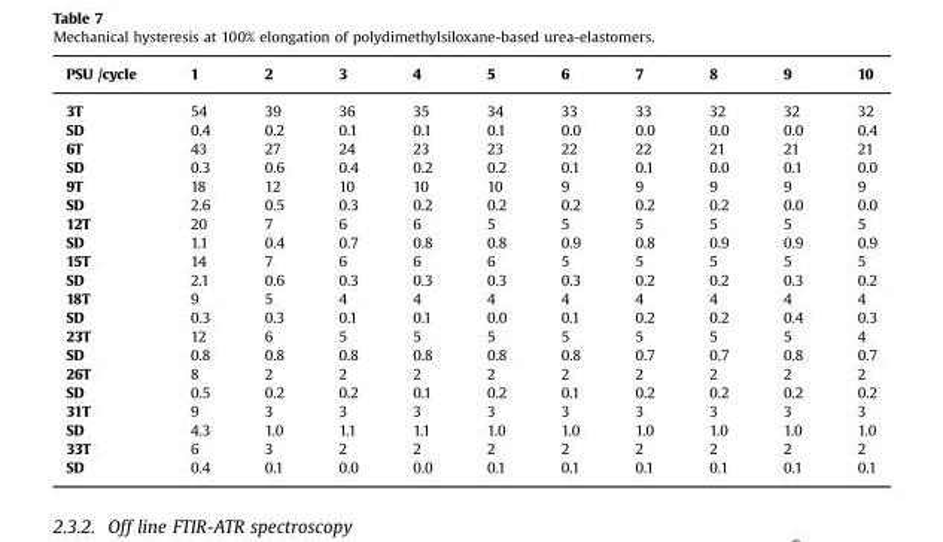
<table><thead><tr><td>PSU /cycle</td><td>1</td><td>2</td><td>3</td><td>4</td><td>5</td><td>6</td><td>7</td><td>8</td><td>9</td><td>10</td></tr></thead><tbody><tr><td>3T</td><td>54</td><td>39</td><td>36</td><td>35</td><td>34</td><td>33</td><td>33</td><td>32</td><td>32</td><td>32</td></tr><tr><td>SD</td><td>0.4</td><td>0.2</td><td>0.1</td><td>0.1</td><td>0.1</td><td>0.0</td><td>0.0</td><td>0.0</td><td>0.0</td><td>0.4</td></tr><tr><td>6T</td><td>43</td><td>27</td><td>24</td><td>23</td><td>23</td><td>22</td><td>22</td><td>21</td><td>21</td><td>21</td></tr><tr><td>SD</td><td>0.3</td><td>0.6</td><td>0.4</td><td>0.2</td><td>0.2</td><td>0.1</td><td>0.1</td><td>0.0</td><td>0.1</td><td>0.0</td></tr><tr><td>9T</td><td>18</td><td>12</td><td>10</td><td>10</td><td>10</td><td>9</td><td>9</td><td>9</td><td>9</td><td>9</td></tr><tr><td>SD</td><td>2.6</td><td>0.5</td><td>0.3</td><td>0.2</td><td>0.2</td><td>0.2</td><td>0.2</td><td>0.2</td><td>0.0</td><td>0.0</td></tr><tr><td>12T</td><td>20</td><td>7</td><td>6</td><td>6</td><td>5</td><td>5</td><td>5</td><td>5</td><td>5</td><td>5</td></tr><tr><td>SD</td><td>1.1</td><td>0.4</td><td>0.7</td><td>0.8</td><td>0.8</td><td>0.9</td><td>0.8</td><td>0.9</td><td>0.9</td><td>0.9</td></tr><tr><td>15T</td><td>14</td><td>7</td><td>6</td><td>6</td><td>6</td><td>5</td><td>5</td><td>5</td><td>5</td><td>5</td></tr><tr><td>SD</td><td>2.1</td><td>0.6</td><td>0.3</td><td>0.3</td><td>0.3</td><td>0.3</td><td>0.2</td><td>0.2</td><td>0.3</td><td>0.2</td></tr><tr><td>18T</td><td>9</td><td>5</td><td>4</td><td>4</td><td>4</td><td>4</td><td>4</td><td>4</td><td>4</td><td>4</td></tr><tr><td>SD</td><td>0.3</td><td>0.3</td><td>0.1</td><td>0.1</td><td>0.0</td><td>0.1</td><td>0.2</td><td>0.2</td><td>0.4</td><td>0.3</td></tr><tr><td>23T</td><td>12</td><td>6</td><td>5</td><td>5</td><td>5</td><td>5</td><td>5</td><td>5</td><td>5</td><td>4</td></tr><tr><td>SD</td><td>0.8</td><td>0.8</td><td>0.8</td><td>0.8</td><td>0.8</td><td>0.8</td><td>0.7</td><td>0.7</td><td>0.8</td><td>0.7</td></tr><tr><td>26T</td><td>8</td><td>2</td><td>2</td><td>2</td><td>2</td><td>2</td><td>2</td><td>2</td><td>2</td><td>2</td></tr><tr><td>SD</td><td>0.5</td><td>0.2</td><td>0.2</td><td>0.1</td><td>0.2</td><td>0.1</td><td>0.2</td><td>0.2</td><td>0.2</td><td>0.2</td></tr><tr><td>31T</td><td>9</td><td>3</td><td>3</td><td>3</td><td>3</td><td>3</td><td>3</td><td>3</td><td>3</td><td>3</td></tr><tr><td>SD</td><td>4.3</td><td>1.0</td><td>1.1</td><td>1.1</td><td>1.0</td><td>1.0</td><td>1.0</td><td>1.0</td><td>1.0</td><td>1.0</td></tr><tr><td>33T</td><td>6</td><td>3</td><td>2</td><td>2</td><td>2</td><td>2</td><td>2</td><td>2</td><td>2</td><td>2</td></tr><tr><td>SD</td><td>0.4</td><td>0.1</td><td>0.0</td><td>0.0</td><td>0.1</td><td>0.1</td><td>0.1</td><td>0.1</td><td>0.1</td><td>0.1</td></tr></tbody></table>